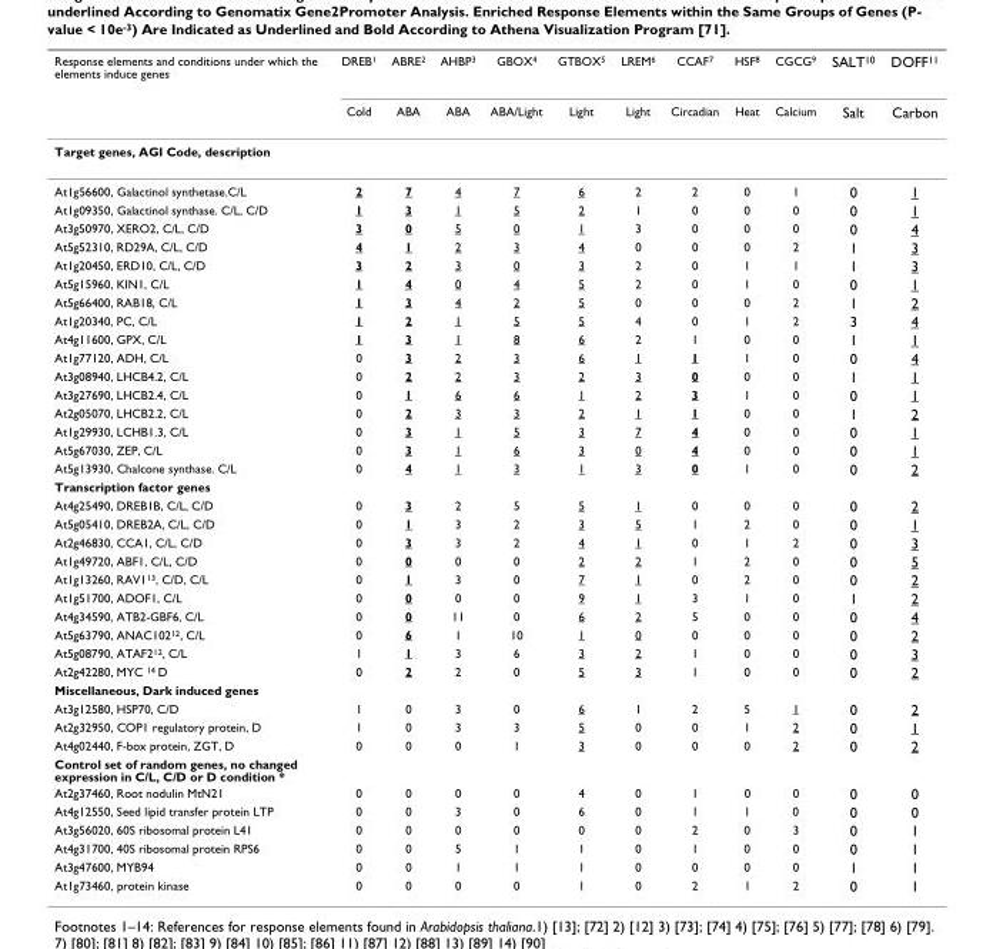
<table><thead><tr><td rowspan="2">Response elements and conditions under which the elements induce genes</td><td rowspan="2">DREB1 Cold</td><td rowspan="2">ABRE2 ABA</td><td rowspan="2">AHBP3 ABA</td><td rowspan="2">GBOX4 ABA/Light</td><td rowspan="2">GTBOX5 Light</td><td rowspan="2">LREM6 Light</td><td rowspan="2">CCAF7 Circadian</td><td rowspan="2">HSF8 Heat</td><td rowspan="2">CGCG9 Calcium</td><td rowspan="2">SALT10 Salt</td><td rowspan="2">DOFF11 Carbon</td></tr><tr></tr></thead><tbody><tr><td colspan="12">Target genes, AGI Code, description</td></tr><tr><td>At1g56600, Galactinol synthetase.C/L</td><td>2</td><td>7</td><td>4</td><td>7</td><td>6</td><td>2</td><td>2</td><td>0</td><td>1</td><td>0</td><td>1</td></tr><tr><td>At1g09350, Galactinol synthase. C/L, C/D</td><td>1</td><td>3</td><td>1</td><td>5</td><td>2</td><td>1</td><td>0</td><td>0</td><td>0</td><td>0</td><td>1</td></tr><tr><td>At3g50970, XERO2, C/L, C/D</td><td>3</td><td>0</td><td>5</td><td>0</td><td>1</td><td>3</td><td>0</td><td>0</td><td>0</td><td>0</td><td>4</td></tr><tr><td>At5g52310, RD29A, C/L, C/D</td><td>4</td><td>1</td><td>2</td><td>3</td><td>4</td><td>0</td><td>0</td><td>0</td><td>2</td><td>1</td><td>3</td></tr><tr><td>At1g20450, ERD10, C/L, C/D</td><td>3</td><td>2</td><td>3</td><td>0</td><td>3</td><td>2</td><td>0</td><td>1</td><td>1</td><td>1</td><td>3</td></tr><tr><td>At5g15960, KIN1, C/L</td><td>1</td><td>4</td><td>0</td><td>4</td><td>5</td><td>2</td><td>0</td><td>1</td><td>0</td><td>0</td><td>1</td></tr><tr><td>At5g66400, RAB18, C/L</td><td>1</td><td>3</td><td>4</td><td>2</td><td>5</td><td>0</td><td>0</td><td>0</td><td>2</td><td>1</td><td>2</td></tr><tr><td>At1g20340, PC, C/L</td><td>1</td><td>2</td><td>1</td><td>5</td><td>5</td><td>4</td><td>0</td><td>1</td><td>2</td><td>3</td><td>4</td></tr><tr><td>At4g11600, GPX, C/L</td><td>1</td><td>3</td><td>1</td><td>8</td><td>6</td><td>2</td><td>1</td><td>0</td><td>0</td><td>1</td><td>1</td></tr><tr><td>At1g77120, ADH, C/L</td><td>0</td><td>3</td><td>2</td><td>3</td><td>6</td><td>1</td><td>1</td><td>1</td><td>0</td><td>0</td><td>4</td></tr><tr><td>At3g08940, LHCB4.2, C/L</td><td>0</td><td>2</td><td>2</td><td>3</td><td>2</td><td>3</td><td>0</td><td>0</td><td>0</td><td>1</td><td>1</td></tr><tr><td>At3g27690, LHCB2.4, C/L</td><td>0</td><td>1</td><td>6</td><td>6</td><td>1</td><td>2</td><td>3</td><td>1</td><td>0</td><td>0</td><td>1</td></tr><tr><td>At2g05070, LHCB2.2, C/L</td><td>0</td><td>2</td><td>3</td><td>3</td><td>2</td><td>1</td><td>1</td><td>0</td><td>0</td><td>1</td><td>2</td></tr><tr><td>At1g29930, LCHB1.3, C/L</td><td>0</td><td>3</td><td>1</td><td>5</td><td>3</td><td>7</td><td>4</td><td>0</td><td>0</td><td>0</td><td>1</td></tr><tr><td>At5g67030, ZEP, C/L</td><td>0</td><td>3</td><td>1</td><td>6</td><td>3</td><td>0</td><td>4</td><td>0</td><td>0</td><td>0</td><td>1</td></tr><tr><td>At5g13930, Chalcone synthase. C/L</td><td>0</td><td>4</td><td>1</td><td>3</td><td>1</td><td>3</td><td>0</td><td>1</td><td>0</td><td>0</td><td>2</td></tr><tr><td colspan="12">Transcription factor genes</td></tr><tr><td>At4g25490, DREB1B, C/L, C/D</td><td>0</td><td>3</td><td>2</td><td>5</td><td>5</td><td>1</td><td>0</td><td>0</td><td>0</td><td>0</td><td>2</td></tr><tr><td>At5g05410, DREB2A, C/L, C/D</td><td>0</td><td>1</td><td>3</td><td>2</td><td>3</td><td>5</td><td>1</td><td>2</td><td>0</td><td>0</td><td>1</td></tr><tr><td>At2g46830, CCA1, C/L, C/D</td><td>0</td><td>3</td><td>3</td><td>2</td><td>4</td><td>1</td><td>0</td><td>1</td><td>2</td><td>0</td><td>3</td></tr><tr><td>At1g49720, ABF1, C/L, C/D</td><td>0</td><td>0</td><td>0</td><td>0</td><td>2</td><td>2</td><td>1</td><td>2</td><td>0</td><td>0</td><td>5</td></tr><tr><td>At1g13260, RAV1<sup>13</sup>, C/D, C/L</td><td>0</td><td>1</td><td>3</td><td>0</td><td>7</td><td>1</td><td>0</td><td>2</td><td>0</td><td>0</td><td>2</td></tr><tr><td>At1g51700, ADOF1, C/L</td><td>0</td><td>0</td><td>0</td><td>0</td><td>9</td><td>1</td><td>3</td><td>1</td><td>0</td><td>1</td><td>2</td></tr><tr><td>At4g34590, ATB2-GBF6, C/L</td><td>0</td><td>0</td><td>11</td><td>0</td><td>6</td><td>2</td><td>5</td><td>0</td><td>0</td><td>0</td><td>4</td></tr><tr><td>At5g63790, ANAC102<sup>12</sup>, C/L</td><td>0</td><td>6</td><td>1</td><td>10</td><td>1</td><td>0</td><td>0</td><td>0</td><td>0</td><td>0</td><td>2</td></tr><tr><td>At5g08790, ATAF2<sup>12</sup>, C/L</td><td>1</td><td>1</td><td>3</td><td>6</td><td>3</td><td>2</td><td>1</td><td>0</td><td>0</td><td>0</td><td>3</td></tr><tr><td>At2g42280, MYC <sup>14</sup> D</td><td>0</td><td>2</td><td>2</td><td>0</td><td>5</td><td>3</td><td>1</td><td>0</td><td>0</td><td>0</td><td>2</td></tr><tr><td colspan="12">Miscellaneous, Dark induced genes</td></tr><tr><td>At3g12580, HSP70, C/D</td><td>1</td><td>0</td><td>3</td><td>0</td><td>6</td><td>1</td><td>2</td><td>5</td><td>1</td><td>0</td><td>2</td></tr><tr><td>At2g32950, COP1 regulatory protein, D</td><td>1</td><td>0</td><td>3</td><td>3</td><td>5</td><td>0</td><td>0</td><td>1</td><td>2</td><td>0</td><td>1</td></tr><tr><td>At4g02440, F-box protein, ZGT, D</td><td>0</td><td>0</td><td>0</td><td>1</td><td>3</td><td>0</td><td>0</td><td>0</td><td>2</td><td>0</td><td>2</td></tr><tr><td colspan="12">Control set of random genes, no changed expression in C/L, C/D or D condition *</td></tr><tr><td>At2g37460, Root nodulin MtN21</td><td>0</td><td>0</td><td>0</td><td>0</td><td>4</td><td>0</td><td>1</td><td>0</td><td>0</td><td>0</td><td>0</td></tr><tr><td>At4g12550, Seed lipid transfer protein LTP</td><td>0</td><td>0</td><td>3</td><td>0</td><td>6</td><td>0</td><td>1</td><td>1</td><td>0</td><td>0</td><td>0</td></tr><tr><td>At3g56020, 60S ribosomal protein L41</td><td>0</td><td>0</td><td>0</td><td>0</td><td>0</td><td>0</td><td>2</td><td>0</td><td>3</td><td>0</td><td>1</td></tr><tr><td>At4g31700, 40S ribosomal protein RPS6</td><td>0</td><td>0</td><td>5</td><td>1</td><td>1</td><td>0</td><td>1</td><td>0</td><td>0</td><td>0</td><td>1</td></tr><tr><td>At3g47600, MYB94</td><td>0</td><td>0</td><td>1</td><td>1</td><td>1</td><td>0</td><td>0</td><td>0</td><td>0</td><td>1</td><td>1</td></tr><tr><td>At1g73460, protein kinase</td><td>0</td><td>0</td><td>0</td><td>0</td><td>1</td><td>0</td><td>2</td><td>1</td><td>2</td><td>0</td><td>1</td></tr></tbody></table>